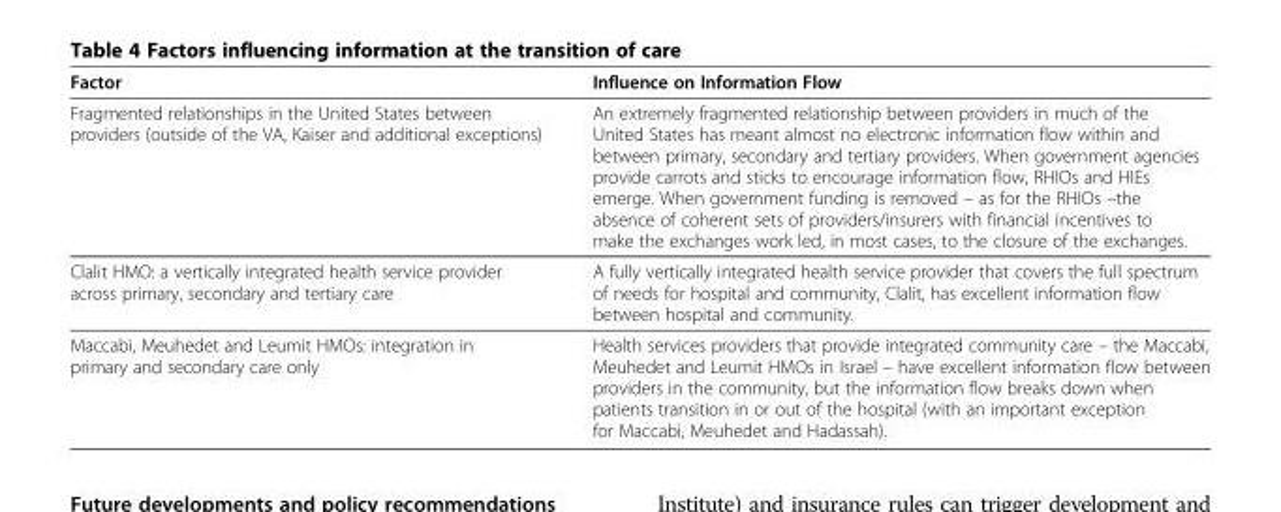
<table><thead><tr><td>Factor</td><td>Influence on Information Flow</td></tr></thead><tbody><tr><td>Fragmented relationships in the United States between providers (outside of the VA, Kaiser and additional exceptions)</td><td>An extremely fragmented relationship between providers in much of the United States has meant almost no electronic information flow within and between primary, secondary and tertiary providers. When government agencies provide carrots and sticks to encourage information flow, RHIOs and HIEs emerge. When government funding is removed – as for the RHIOs –the absence of coherent sets of providers/insurers with financial incentives to make the exchanges work led, in most cases, to the closure of the exchanges.</td></tr><tr><td>Clalit HMO: a vertically integrated health service provider across primary, secondary and tertiary care</td><td>A fully vertically integrated health service provider that covers the full spectrum of needs for hospital and community, Clalit, has excellent information flow between hospital and community.</td></tr><tr><td>Maccabi, Meuhedet and Leumit HMOs: integration in primary and secondary care only</td><td>Health services providers that provide integrated community care – the Maccabi, Meuhedet and Leumit HMOs in Israel – have excellent information flow between providers in the community, but the information flow breaks down when patients transition in or out of the hospital (with an important exception for Maccabi, Meuhedet and Hadassah).</td></tr></tbody></table>